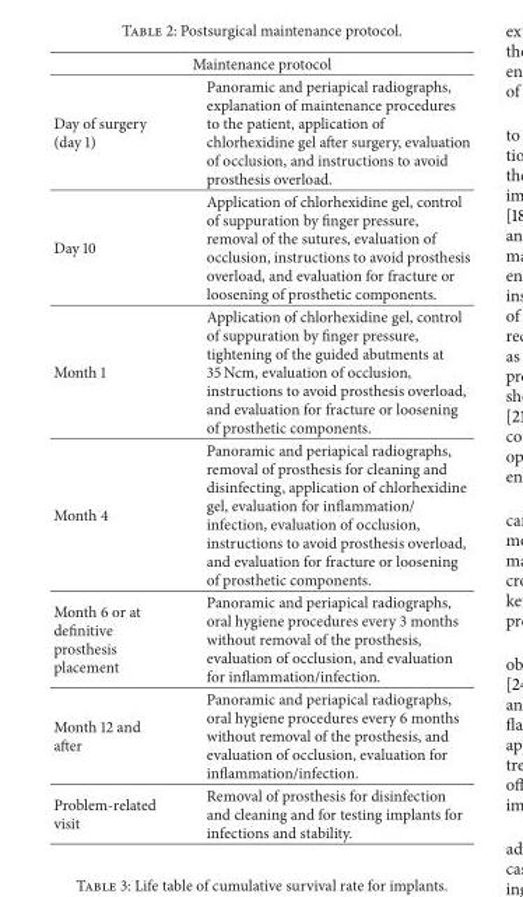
<table><thead><tr><td colspan="2">Maintenance protocol</td></tr><tr><td>Day of surgery (day 1)</td><td>Panoramic and periapical radiographs, explanation of maintenance procedures to the patient, application of chlorhexidine gel after surgery, evaluation of occlusion, and instructions to avoid prosthesis overload.</td></tr></thead><tbody><tr><td>Day 10</td><td>Application of chlorhexidine gel, control of suppuration by finger pressure, removal of the sutures, evaluation of occlusion, instructions to avoid prosthesis overload, and evaluation for fracture or loosening of prosthetic components.</td></tr><tr><td>Month 1</td><td>Application of chlorhexidine gel, control of suppuration by finger pressure, tightening of the guided abutments at 35 Ncm, evaluation of occlusion, instructions to avoid prosthesis overload, and evaluation for fracture or loosening of prosthetic components.</td></tr><tr><td>Month 4</td><td>Panoramic and periapical radiographs, removal of prosthesis for cleaning and disinfecting, application of chlorhexidine gel, evaluation for inflammation/ infection, evaluation of occlusion, instructions to avoid prosthesis overload, and evaluation for fracture or loosening of prosthetic components.</td></tr><tr><td>Month 6 or at definitive prosthesis placement</td><td>Panoramic and periapical radiographs, oral hygiene procedures every 3 months without removal of the prosthesis, evaluation of occlusion, and evaluation for inflammation/infection.</td></tr><tr><td>Month 12 and after</td><td>Panoramic and periapical radiographs, oral hygiene procedures every 6 months without removal of the prosthesis, and evaluation of occlusion, evaluation for inflammation/infection.</td></tr><tr><td>Problem-related visit</td><td>Removal of prosthesis for disinfection and cleaning and for testing implants for infections and stability.</td></tr></tbody></table>